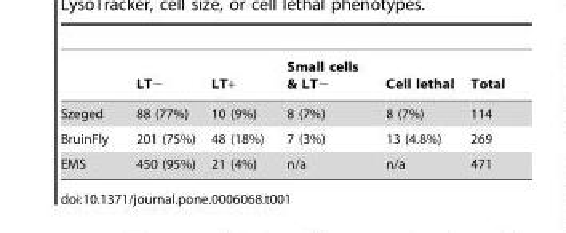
<table><thead><tr><td></td><td>LT−</td><td>LT+</td><td>Small cells &amp; LT−</td><td>Cell lethal</td><td>Total</td></tr></thead><tbody><tr><td>Szeged</td><td>88 (77%)</td><td>10 (9%)</td><td>8 (7%)</td><td>8 (7%)</td><td>114</td></tr><tr><td>BruinFly</td><td>201 (75%)</td><td>48 (18%)</td><td>7 (3%)</td><td>13 (4.8%)</td><td>269</td></tr><tr><td>EMS</td><td>450 (95%)</td><td>21 (4%)</td><td>n/a</td><td>n/a</td><td>471</td></tr></tbody></table>